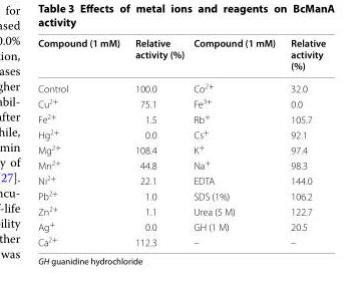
<table><thead><tr><td>Compound (1 mM)</td><td>Relative activity (%)</td><td>Compound (1 mM)</td><td>Relative activity (%)</td></tr></thead><tbody><tr><td>Control</td><td>100.0</td><td>Co<sup>2+</sup></td><td>32.0</td></tr><tr><td>Cu<sup>2+</sup></td><td>75.1</td><td>Fe<sup>3+</sup></td><td>0.0</td></tr><tr><td>Fe<sup>2+</sup></td><td>1.5</td><td>Rb<sup>+</sup></td><td>105.7</td></tr><tr><td>Hg<sup>2+</sup></td><td>0.0</td><td>Cs<sup>+</sup></td><td>92.1</td></tr><tr><td>Mg<sup>2+</sup></td><td>108.4</td><td>K<sup>+</sup></td><td>97.4</td></tr><tr><td>Mn<sup>2+</sup></td><td>44.8</td><td>Na<sup>+</sup></td><td>98.3</td></tr><tr><td>Ni<sup>2+</sup></td><td>22.1</td><td>EDTA</td><td>144.0</td></tr><tr><td>Pb<sup>2+</sup></td><td>1.0</td><td>SDS (1%)</td><td>106.2</td></tr><tr><td>Zn<sup>2+</sup></td><td>1.1</td><td>Urea (5 M)</td><td>122.7</td></tr><tr><td>Ag<sup>+</sup></td><td>0.0</td><td>GH (1 M)</td><td>20.5</td></tr><tr><td>Ca<sup>2+</sup></td><td>112.3</td><td>–</td><td>–</td></tr></tbody></table>